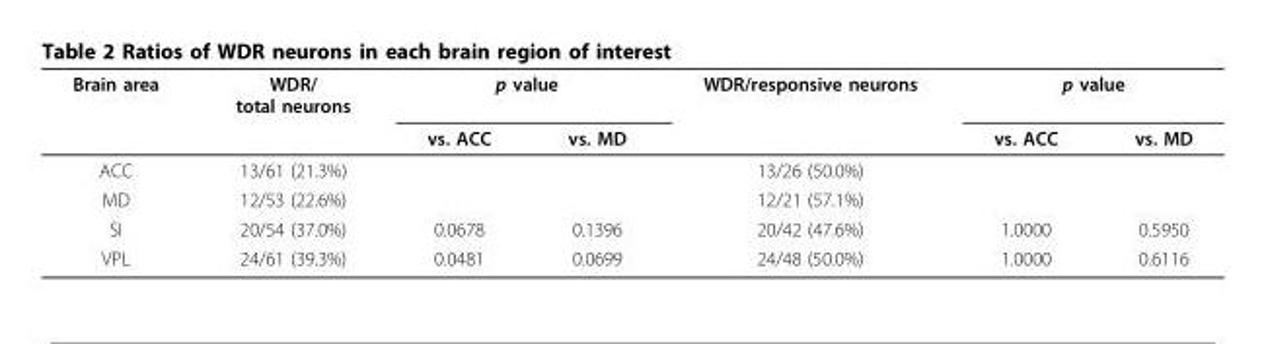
<table><thead><tr><td rowspan="2">Brain area</td><td rowspan="2">WDR/ total neurons</td><td colspan="2">p value</td><td rowspan="2">WDR/responsive neurons</td><td colspan="2">p value</td></tr><tr><td>vs. ACC</td><td>vs. MD</td><td>vs. ACC</td><td>vs. MD</td></tr></thead><tbody><tr><td>ACC</td><td>13/61 (21.3%)</td><td></td><td></td><td>13/26 (50.0%)</td><td></td><td></td></tr><tr><td>MD</td><td>12/53 (22.6%)</td><td></td><td></td><td>12/21 (57.1%)</td><td></td><td></td></tr><tr><td>SI</td><td>20/54 (37.0%)</td><td>0.0678</td><td>0.1396</td><td>20/42 (47.6%)</td><td>1.0000</td><td>0.5950</td></tr><tr><td>VPL</td><td>24/61 (39.3%)</td><td>0.0481</td><td>0.0699</td><td>24/48 (50.0%)</td><td>1.0000</td><td>0.6116</td></tr></tbody></table>